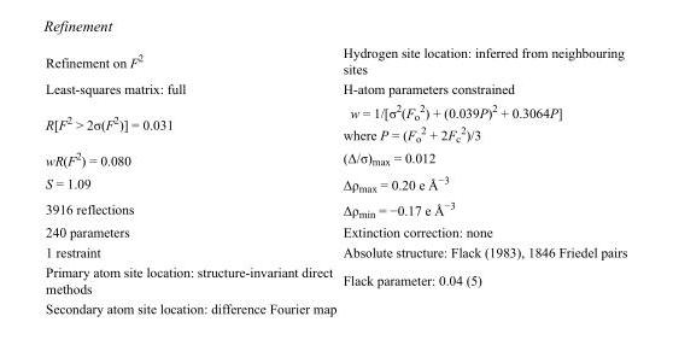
<table><tbody><tr><td>Refinement on F<sup>2</sup></td><td>Hydrogen site location: inferred from neighbouring sites</td></tr><tr><td>Least-squares matrix: full</td><td>H-atom parameters constrained</td></tr><tr><td>R[F<sup>2</sup> &gt; 2σ(F<sup>2</sup>)] = 0.031</td><td>w = 1/[σ<sup>2</sup>(F<sub>o</sub> <sup>2</sup>) + (0.039P)<sup>2</sup> + 0.3064P] where P = (F<sub>o</sub> <sup>2</sup> + 2F<sub>c</sub> <sup>2</sup>)/3</td></tr><tr><td>wR(F<sup>2</sup>) = 0.080</td><td>(Δ/σ)<sub>max</sub> = 0.012</td></tr><tr><td>S = 1.09</td><td>Δρ<sub>max</sub> = 0.20 e Å<sup>−3</sup></td></tr><tr><td>3916 reflections</td><td>Δρ<sub>min</sub> = −0.17 e Å<sup>−3</sup></td></tr><tr><td>240 parameters</td><td>Extinction correction: none</td></tr><tr><td>1 restraint</td><td>Absolute structure: Flack (1983), 1846 Friedel pairs</td></tr><tr><td>Primary atom site location: structure-invariant direct methods</td><td>Flack parameter: 0.04 (5)</td></tr><tr><td>Secondary atom site location: difference Fourier map</td><td></td></tr></tbody></table>